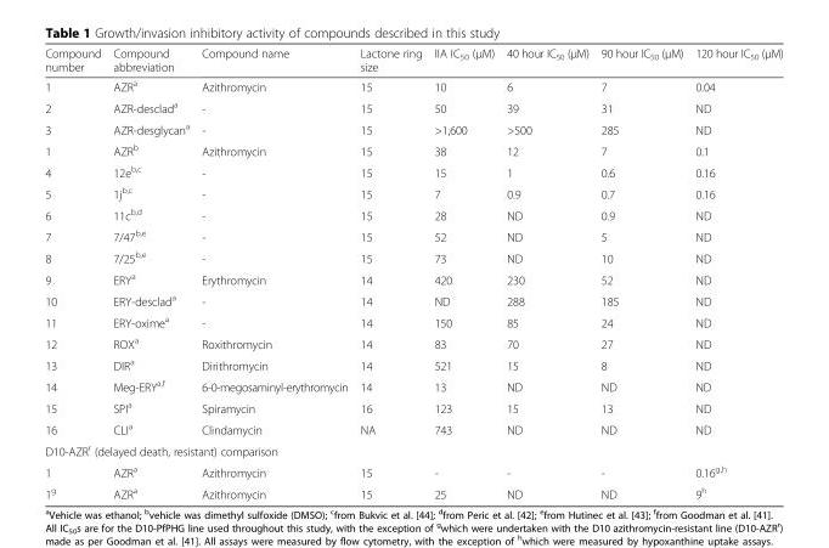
<table><thead><tr><td>Compound number</td><td>Compound abbreviation</td><td>Compound name</td><td>Lactone ring size</td><td>IIA IC<sub>50</sub> (μM)</td><td>40 hour IC<sub>50</sub> (μM)</td><td>90 hour IC<sub>50</sub> (μM)</td><td>120 hour IC<sub>50</sub> (μM)</td></tr></thead><tbody><tr><td>1</td><td>AZR<sup>a</sup></td><td>Azithromycin</td><td>15</td><td>10</td><td>6</td><td>7</td><td>0.04</td></tr><tr><td>2</td><td>AZR-desclad<sup>a</sup></td><td>-</td><td>15</td><td>50</td><td>39</td><td>31</td><td>ND</td></tr><tr><td>3</td><td>AZR-desglycan<sup>a</sup></td><td>-</td><td>15</td><td>&gt;1,600</td><td>&gt;500</td><td>285</td><td>ND</td></tr><tr><td>1</td><td>AZR<sup>b</sup></td><td>Azithromycin</td><td>15</td><td>38</td><td>12</td><td>7</td><td>0.1</td></tr><tr><td>4</td><td>12e<sup>b,c</sup></td><td>-</td><td>15</td><td>15</td><td>1</td><td>0.6</td><td>0.16</td></tr><tr><td>5</td><td>1j<sup>b,c</sup></td><td>-</td><td>15</td><td>7</td><td>0.9</td><td>0.7</td><td>0.16</td></tr><tr><td>6</td><td>11c<sup>b,d</sup></td><td>-</td><td>15</td><td>28</td><td>ND</td><td>0.9</td><td>ND</td></tr><tr><td>7</td><td>7/47<sup>b,e</sup></td><td>-</td><td>15</td><td>52</td><td>ND</td><td>5</td><td>ND</td></tr><tr><td>8</td><td>7/25<sup>b,e</sup></td><td>-</td><td>15</td><td>73</td><td>ND</td><td>10</td><td>ND</td></tr><tr><td>9</td><td>ERY<sup>a</sup></td><td>Erythromycin</td><td>14</td><td>420</td><td>230</td><td>52</td><td>ND</td></tr><tr><td>10</td><td>ERY-desclad<sup>a</sup></td><td>-</td><td>14</td><td>ND</td><td>288</td><td>185</td><td>ND</td></tr><tr><td>11</td><td>ERY-oxime<sup>a</sup></td><td>-</td><td>14</td><td>150</td><td>85</td><td>24</td><td>ND</td></tr><tr><td>12</td><td>ROX<sup>a</sup></td><td>Roxithromycin</td><td>14</td><td>83</td><td>70</td><td>27</td><td>ND</td></tr><tr><td>13</td><td>DIR<sup>a</sup></td><td>Dirithromycin</td><td>14</td><td>521</td><td>15</td><td>8</td><td>ND</td></tr><tr><td>14</td><td>Meg-ERY<sup>a,f</sup></td><td>6-0-megosaminyl-erythromycin</td><td>14</td><td>13</td><td>ND</td><td>ND</td><td>ND</td></tr><tr><td>15</td><td>SPI<sup>a</sup></td><td>Spiramycin</td><td>16</td><td>123</td><td>15</td><td>13</td><td>ND</td></tr><tr><td>16</td><td>CLI<sup>a</sup></td><td>Clindamycin</td><td>NA</td><td>743</td><td>ND</td><td>ND</td><td>ND</td></tr><tr><td colspan="8">D10-AZR<sup>r</sup> (delayed death, resistant) comparison</td></tr><tr><td>1</td><td>AZR<sup>a</sup></td><td>Azithromycin</td><td>15</td><td>-</td><td>-</td><td>-</td><td>0.16<sup>g,h</sup></td></tr><tr><td>1<sup>g</sup></td><td>AZR<sup>a</sup></td><td>Azithromycin</td><td>15</td><td>25</td><td>ND</td><td>ND</td><td>9<sup>h</sup></td></tr></tbody></table>